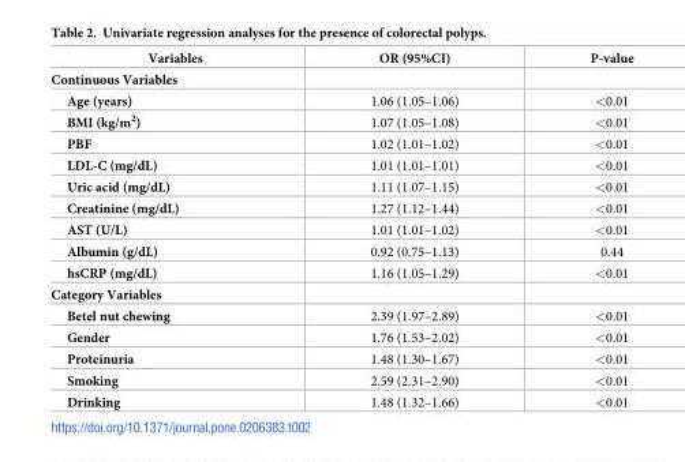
<table><thead><tr><td>Variables</td><td>OR (95%CI)</td><td>P-value</td></tr></thead><tbody><tr><td colspan="3">Continuous Variables</td></tr><tr><td>Age (years)</td><td>1.06 (1.05–1.06)</td><td>&lt;0.01</td></tr><tr><td>BMI (kg/m<sup>2</sup>)</td><td>1.07 (1.05–1.08)</td><td>&lt;0.01</td></tr><tr><td>PBF</td><td>1.02 (1.01–1.02)</td><td>&lt;0.01</td></tr><tr><td>LDL-C (mg/dL)</td><td>1.01 (1.01–1.01)</td><td>&lt;0.01</td></tr><tr><td>Uric acid (mg/dL)</td><td>1.11 (1.07–1.15)</td><td>&lt;0.01</td></tr><tr><td>Creatinine (mg/dL)</td><td>1.27 (1.12–1.44)</td><td>&lt;0.01</td></tr><tr><td>AST (U/L)</td><td>1.01 (1.01–1.02)</td><td>&lt;0.01</td></tr><tr><td>Albumin (g/dL)</td><td>0.92 (0.75–1.13)</td><td>0.44</td></tr><tr><td>hsCRP (mg/dL)</td><td>1.16 (1.05–1.29)</td><td>&lt;0.01</td></tr><tr><td colspan="3">Category Variables</td></tr><tr><td>Betel nut chewing</td><td>2.39 (1.97–2.89)</td><td>&lt;0.01</td></tr><tr><td>Gender</td><td>1.76 (1.53–2.02)</td><td>&lt;0.01</td></tr><tr><td>Proteinuria</td><td>1.48 (1.30–1.67)</td><td>&lt;0.01</td></tr><tr><td>Smoking</td><td>2.59 (2.31–2.90)</td><td>&lt;0.01</td></tr><tr><td>Drinking</td><td>1.48 (1.32–1.66)</td><td>&lt;0.01</td></tr></tbody></table>